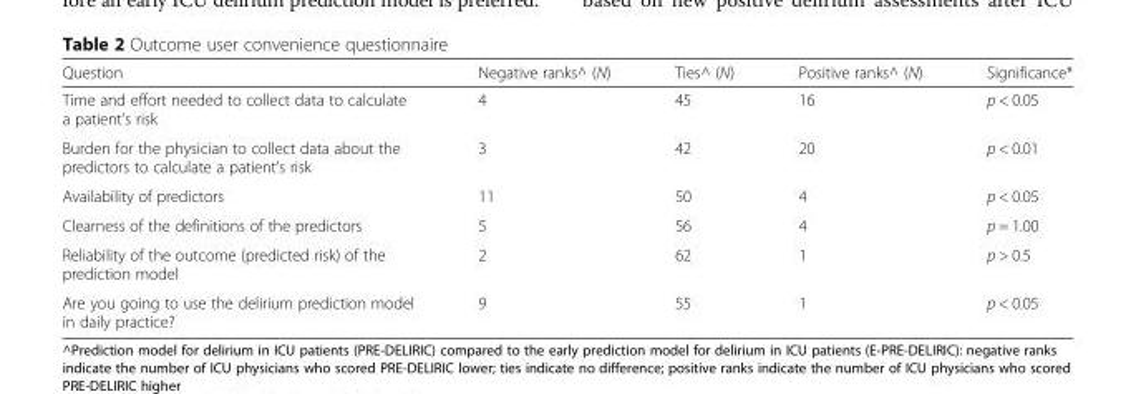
<table><thead><tr><td>Question</td><td>Negative ranks^ (N)</td><td>Ties^ (N)</td><td>Positive ranks^ (N)</td><td>Significance*</td></tr></thead><tbody><tr><td>Time and effort needed to collect data to calculate a patient’s risk</td><td>4</td><td>45</td><td>16</td><td>p &lt; 0.05</td></tr><tr><td>Burden for the physician to collect data about the predictors to calculate a patient’s risk</td><td>3</td><td>42</td><td>20</td><td>p &lt; 0.01</td></tr><tr><td>Availability of predictors</td><td>11</td><td>50</td><td>4</td><td>p &lt; 0.05</td></tr><tr><td>Clearness of the definitions of the predictors</td><td>5</td><td>56</td><td>4</td><td>p = 1.00</td></tr><tr><td>Reliability of the outcome (predicted risk) of the prediction model</td><td>2</td><td>62</td><td>1</td><td>p &gt; 0.5</td></tr><tr><td>Are you going to use the delirium prediction model in daily practice?</td><td>9</td><td>55</td><td>1</td><td>p &lt; 0.05</td></tr></tbody></table>